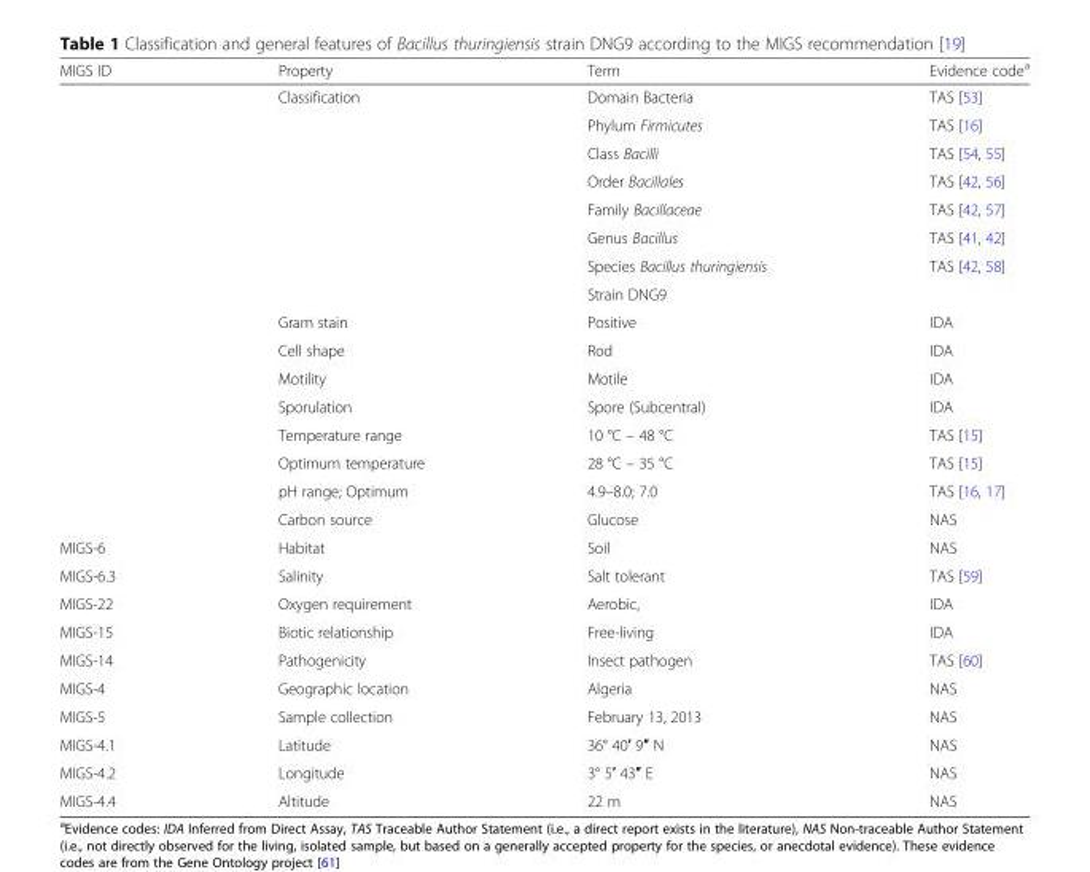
<table><thead><tr><td>MIGS ID</td><td>Property</td><td>Term</td><td>Evidence code<sup>a</sup></td></tr></thead><tbody><tr><td></td><td>Classification</td><td>Domain Bacteria</td><td>TAS [53]</td></tr><tr><td></td><td></td><td>Phylum Firmicutes</td><td>TAS [16]</td></tr><tr><td></td><td></td><td>Class Bacilli</td><td>TAS [54, 55]</td></tr><tr><td></td><td></td><td>Order Bacillales</td><td>TAS [42, 56]</td></tr><tr><td></td><td></td><td>Family Bacillaceae</td><td>TAS [42, 57]</td></tr><tr><td></td><td></td><td>Genus Bacillus</td><td>TAS [41, 42]</td></tr><tr><td></td><td></td><td>Species Bacillus thuringiensis</td><td>TAS [42, 58]</td></tr><tr><td></td><td></td><td>Strain DNG9</td><td></td></tr><tr><td></td><td>Gram stain</td><td>Positive</td><td>IDA</td></tr><tr><td></td><td>Cell shape</td><td>Rod</td><td>IDA</td></tr><tr><td></td><td>Motility</td><td>Motile</td><td>IDA</td></tr><tr><td></td><td>Sporulation</td><td>Spore (Subcentral)</td><td>IDA</td></tr><tr><td></td><td>Temperature range</td><td>10 °C – 48 °C</td><td>TAS [15]</td></tr><tr><td></td><td>Optimum temperature</td><td>28 °C – 35 °C</td><td>TAS [15]</td></tr><tr><td></td><td>pH range; Optimum</td><td>4.9–8.0; 7.0</td><td>TAS [16, 17]</td></tr><tr><td></td><td>Carbon source</td><td>Glucose</td><td>NAS</td></tr><tr><td>MIGS-6</td><td>Habitat</td><td>Soil</td><td>NAS</td></tr><tr><td>MIGS-6.3</td><td>Salinity</td><td>Salt tolerant</td><td>TAS [59]</td></tr><tr><td>MIGS-22</td><td>Oxygen requirement</td><td>Aerobic,</td><td>IDA</td></tr><tr><td>MIGS-15</td><td>Biotic relationship</td><td>Free-living</td><td>IDA</td></tr><tr><td>MIGS-14</td><td>Pathogenicity</td><td>Insect pathogen</td><td>TAS [60]</td></tr><tr><td>MIGS-4</td><td>Geographic location</td><td>Algeria</td><td>NAS</td></tr><tr><td>MIGS-5</td><td>Sample collection</td><td>February 13, 2013</td><td>NAS</td></tr><tr><td>MIGS-4.1</td><td>Latitude</td><td>36° 40′ 9″ N</td><td>NAS</td></tr><tr><td>MIGS-4.2</td><td>Longitude</td><td>3° 5′ 43″ E</td><td>NAS</td></tr><tr><td>MIGS-4.4</td><td>Altitude</td><td>22 m</td><td>NAS</td></tr></tbody></table>